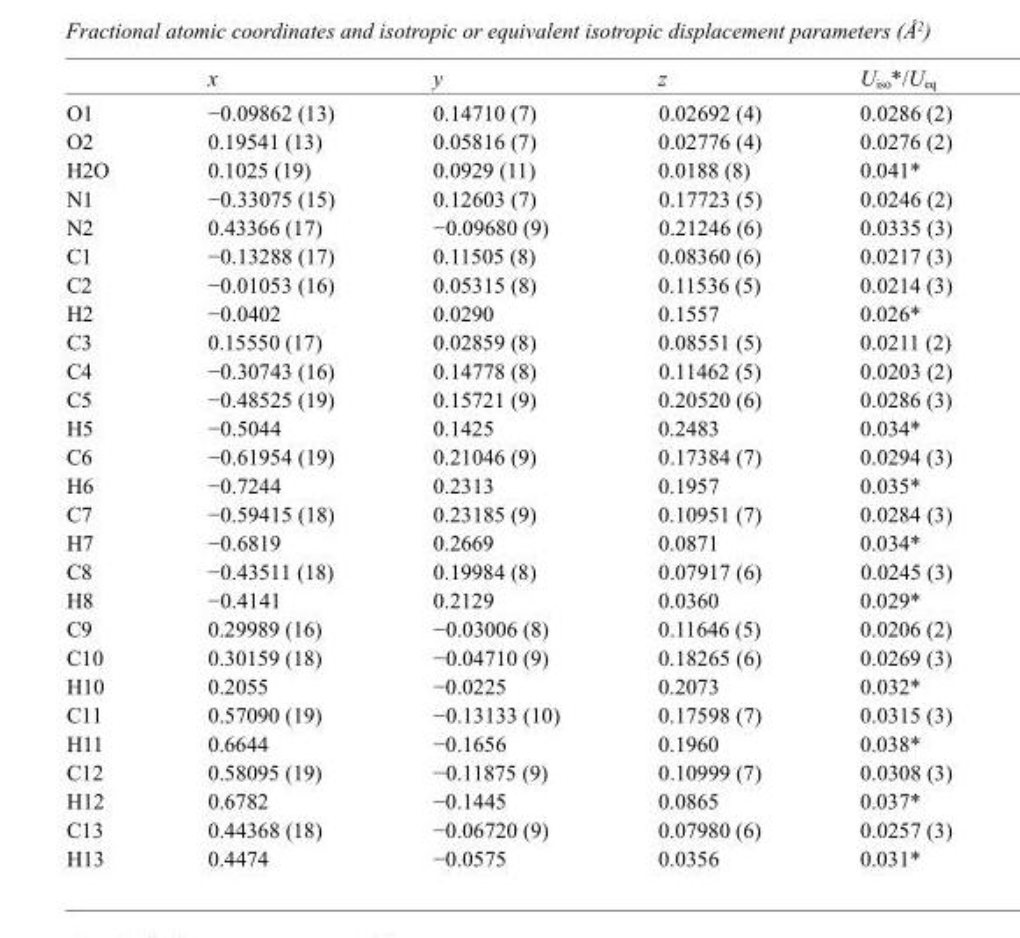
<table><thead><tr><td></td><td>x</td><td>y</td><td>z</td><td>U<sub>iso</sub>*/U<sub>eq</sub></td></tr></thead><tbody><tr><td>O1</td><td>−0.09862 (13)</td><td>0.14710 (7)</td><td>0.02692 (4)</td><td>0.0286 (2)</td></tr><tr><td>O2</td><td>0.19541 (13)</td><td>0.05816 (7)</td><td>0.02776 (4)</td><td>0.0276 (2)</td></tr><tr><td>H2O</td><td>0.1025 (19)</td><td>0.0929 (11)</td><td>0.0188 (8)</td><td>0.041*</td></tr><tr><td>N1</td><td>−0.33075 (15)</td><td>0.12603 (7)</td><td>0.17723 (5)</td><td>0.0246 (2)</td></tr><tr><td>N2</td><td>0.43366 (17)</td><td>−0.09680 (9)</td><td>0.21246 (6)</td><td>0.0335 (3)</td></tr><tr><td>C1</td><td>−0.13288 (17)</td><td>0.11505 (8)</td><td>0.08360 (6)</td><td>0.0217 (3)</td></tr><tr><td>C2</td><td>−0.01053 (16)</td><td>0.05315 (8)</td><td>0.11536 (5)</td><td>0.0214 (3)</td></tr><tr><td>H2</td><td>−0.0402</td><td>0.0290</td><td>0.1557</td><td>0.026*</td></tr><tr><td>C3</td><td>0.15550 (17)</td><td>0.02859 (8)</td><td>0.08551 (5)</td><td>0.0211 (2)</td></tr><tr><td>C4</td><td>−0.30743 (16)</td><td>0.14778 (8)</td><td>0.11462 (5)</td><td>0.0203 (2)</td></tr><tr><td>C5</td><td>−0.48525 (19)</td><td>0.15721 (9)</td><td>0.20520 (6)</td><td>0.0286 (3)</td></tr><tr><td>H5</td><td>−0.5044</td><td>0.1425</td><td>0.2483</td><td>0.034*</td></tr><tr><td>C6</td><td>−0.61954 (19)</td><td>0.21046 (9)</td><td>0.17384 (7)</td><td>0.0294 (3)</td></tr><tr><td>H6</td><td>−0.7244</td><td>0.2313</td><td>0.1957</td><td>0.035*</td></tr><tr><td>C7</td><td>−0.59415 (18)</td><td>0.23185 (9)</td><td>0.10951 (7)</td><td>0.0284 (3)</td></tr><tr><td>H7</td><td>−0.6819</td><td>0.2669</td><td>0.0871</td><td>0.034*</td></tr><tr><td>C8</td><td>−0.43511 (18)</td><td>0.19984 (8)</td><td>0.07917 (6)</td><td>0.0245 (3)</td></tr><tr><td>H8</td><td>−0.4141</td><td>0.2129</td><td>0.0360</td><td>0.029*</td></tr><tr><td>C9</td><td>0.29989 (16)</td><td>−0.03006 (8)</td><td>0.11646 (5)</td><td>0.0206 (2)</td></tr><tr><td>C10</td><td>0.30159 (18)</td><td>−0.04710 (9)</td><td>0.18265 (6)</td><td>0.0269 (3)</td></tr><tr><td>H10</td><td>0.2055</td><td>−0.0225</td><td>0.2073</td><td>0.032*</td></tr><tr><td>C11</td><td>0.57090 (19)</td><td>−0.13133 (10)</td><td>0.17598 (7)</td><td>0.0315 (3)</td></tr><tr><td>H11</td><td>0.6644</td><td>−0.1656</td><td>0.1960</td><td>0.038*</td></tr><tr><td>C12</td><td>0.58095 (19)</td><td>−0.11875 (9)</td><td>0.10999 (7)</td><td>0.0308 (3)</td></tr><tr><td>H12</td><td>0.6782</td><td>−0.1445</td><td>0.0865</td><td>0.037*</td></tr><tr><td>C13</td><td>0.44368 (18)</td><td>−0.06720 (9)</td><td>0.07980 (6)</td><td>0.0257 (3)</td></tr><tr><td>H13</td><td>0.4474</td><td>−0.0575</td><td>0.0356</td><td>0.031*</td></tr></tbody></table>